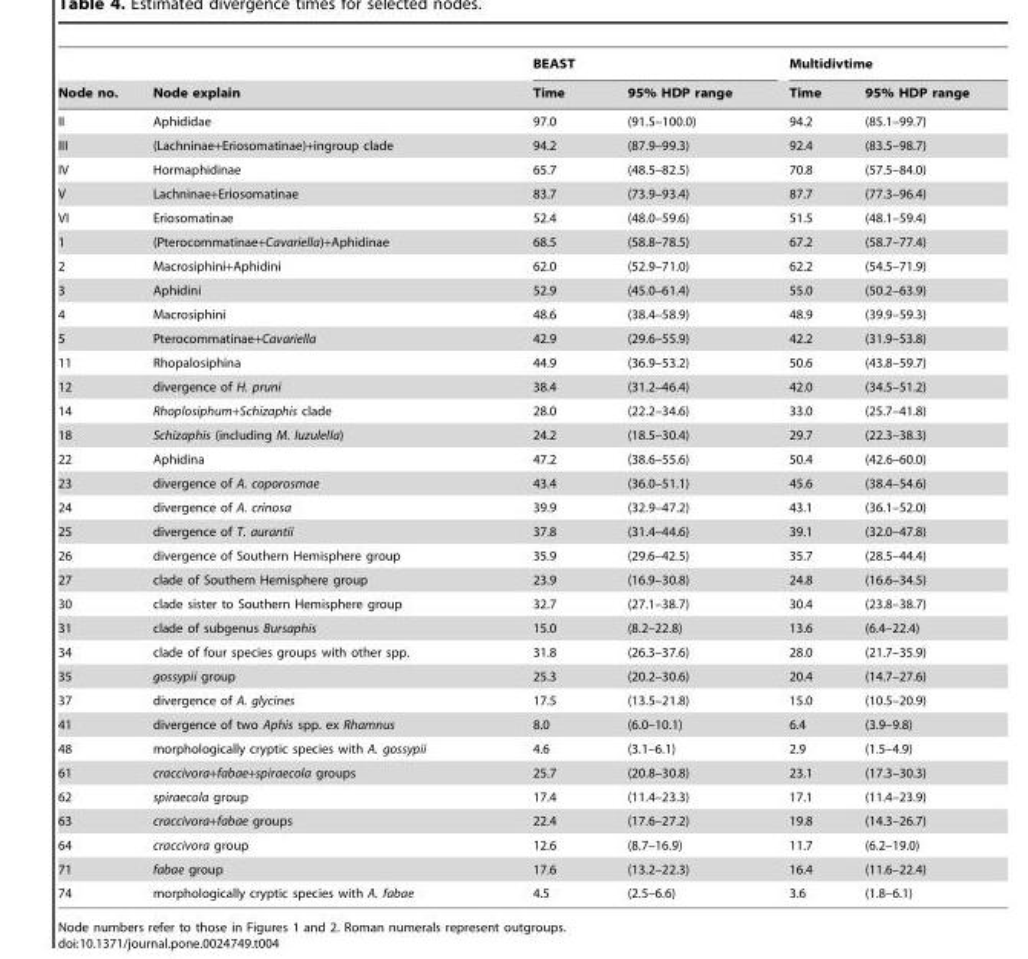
<table><thead><tr><td rowspan="2">Node no.</td><td rowspan="2">Node explain</td><td colspan="2">BEAST</td><td colspan="2">Multidivtime</td></tr><tr><td>Time</td><td>95% HDP range</td><td>Time</td><td>95% HDP range</td></tr></thead><tbody><tr><td>II</td><td>Aphididae</td><td>97.0</td><td>(91.5–100.0)</td><td>94.2</td><td>(85.1–99.7)</td></tr><tr><td>III</td><td>(Lachninae+Eriosomatinae)+ingroup clade</td><td>94.2</td><td>(87.9–99.3)</td><td>92.4</td><td>(83.5–98.7)</td></tr><tr><td>IV</td><td>Hormaphidinae</td><td>65.7</td><td>(48.5–82.5)</td><td>70.8</td><td>(57.5–84.0)</td></tr><tr><td>V</td><td>Lachninae+Eriosomatinae</td><td>83.7</td><td>(73.9–93.4)</td><td>87.7</td><td>(77.3–96.4)</td></tr><tr><td>VI</td><td>Eriosomatinae</td><td>52.4</td><td>(48.0–59.6)</td><td>51.5</td><td>(48.1–59.4)</td></tr><tr><td>1</td><td>(Pterocommatinae+Cavariella)+Aphidinae</td><td>68.5</td><td>(58.8–78.5)</td><td>67.2</td><td>(58.7–77.4)</td></tr><tr><td>2</td><td>Macrosiphini+Aphidini</td><td>62.0</td><td>(52.9–71.0)</td><td>62.2</td><td>(54.5–71.9)</td></tr><tr><td>3</td><td>Aphidini</td><td>52.9</td><td>(45.0–61.4)</td><td>55.0</td><td>(50.2–63.9)</td></tr><tr><td>4</td><td>Macrosiphini</td><td>48.6</td><td>(38.4–58.9)</td><td>48.9</td><td>(39.9–59.3)</td></tr><tr><td>5</td><td>Pterocommatinae+Cavariella</td><td>42.9</td><td>(29.6–55.9)</td><td>42.2</td><td>(31.9–53.8)</td></tr><tr><td>11</td><td>Rhopalosiphina</td><td>44.9</td><td>(36.9–53.2)</td><td>50.6</td><td>(43.8–59.7)</td></tr><tr><td>12</td><td>divergence of H. pruni</td><td>38.4</td><td>(31.2–46.4)</td><td>42.0</td><td>(34.5–51.2)</td></tr><tr><td>14</td><td>Rhoplosiphum+Schizaphis clade</td><td>28.0</td><td>(22.2–34.6)</td><td>33.0</td><td>(25.7–41.8)</td></tr><tr><td>18</td><td>Schizaphis (including M. luzulella)</td><td>24.2</td><td>(18.5–30.4)</td><td>29.7</td><td>(22.3–38.3)</td></tr><tr><td>22</td><td>Aphidina</td><td>47.2</td><td>(38.6–55.6)</td><td>50.4</td><td>(42.6–60.0)</td></tr><tr><td>23</td><td>divergence of A. coporosmae</td><td>43.4</td><td>(36.0–51.1)</td><td>45.6</td><td>(38.4–54.6)</td></tr><tr><td>24</td><td>divergence of A. crinosa</td><td>39.9</td><td>(32.9–47.2)</td><td>43.1</td><td>(36.1–52.0)</td></tr><tr><td>25</td><td>divergence of T. aurantii</td><td>37.8</td><td>(31.4–44.6)</td><td>39.1</td><td>(32.0–47.8)</td></tr><tr><td>26</td><td>divergence of Southern Hemisphere group</td><td>35.9</td><td>(29.6–42.5)</td><td>35.7</td><td>(28.5–44.4)</td></tr><tr><td>27</td><td>clade of Southern Hemisphere group</td><td>23.9</td><td>(16.9–30.8)</td><td>24.8</td><td>(16.6–34.5)</td></tr><tr><td>30</td><td>clade sister to Southern Hemisphere group</td><td>32.7</td><td>(27.1–38.7)</td><td>30.4</td><td>(23.8–38.7)</td></tr><tr><td>31</td><td>clade of subgenus Bursaphis</td><td>15.0</td><td>(8.2–22.8)</td><td>13.6</td><td>(6.4–22.4)</td></tr><tr><td>34</td><td>clade of four species groups with other spp.</td><td>31.8</td><td>(26.3–37.6)</td><td>28.0</td><td>(21.7–35.9)</td></tr><tr><td>35</td><td>gossypii group</td><td>25.3</td><td>(20.2–30.6)</td><td>20.4</td><td>(14.7–27.6)</td></tr><tr><td>37</td><td>divergence of A. glycines</td><td>17.5</td><td>(13.5–21.8)</td><td>15.0</td><td>(10.5–20.9)</td></tr><tr><td>41</td><td>divergence of two Aphis spp. ex Rhamnus</td><td>8.0</td><td>(6.0–10.1)</td><td>6.4</td><td>(3.9–9.8)</td></tr><tr><td>48</td><td>morphologically cryptic species with A. gossypii</td><td>4.6</td><td>(3.1–6.1)</td><td>2.9</td><td>(1.5–4.9)</td></tr><tr><td>61</td><td>craccivora+fabae+spiraecola groups</td><td>25.7</td><td>(20.8–30.8)</td><td>23.1</td><td>(17.3–30.3)</td></tr><tr><td>62</td><td>spiraecola group</td><td>17.4</td><td>(11.4–23.3)</td><td>17.1</td><td>(11.4–23.9)</td></tr><tr><td>63</td><td>craccivora+fabae groups</td><td>22.4</td><td>(17.6–27.2)</td><td>19.8</td><td>(14.3–26.7)</td></tr><tr><td>64</td><td>craccivora group</td><td>12.6</td><td>(8.7–16.9)</td><td>11.7</td><td>(6.2–19.0)</td></tr><tr><td>71</td><td>fabae group</td><td>17.6</td><td>(13.2–22.3)</td><td>16.4</td><td>(11.6–22.4)</td></tr><tr><td>74</td><td>morphologically cryptic species with A. fabae</td><td>4.5</td><td>(2.5–6.6)</td><td>3.6</td><td>(1.8–6.1)</td></tr></tbody></table>